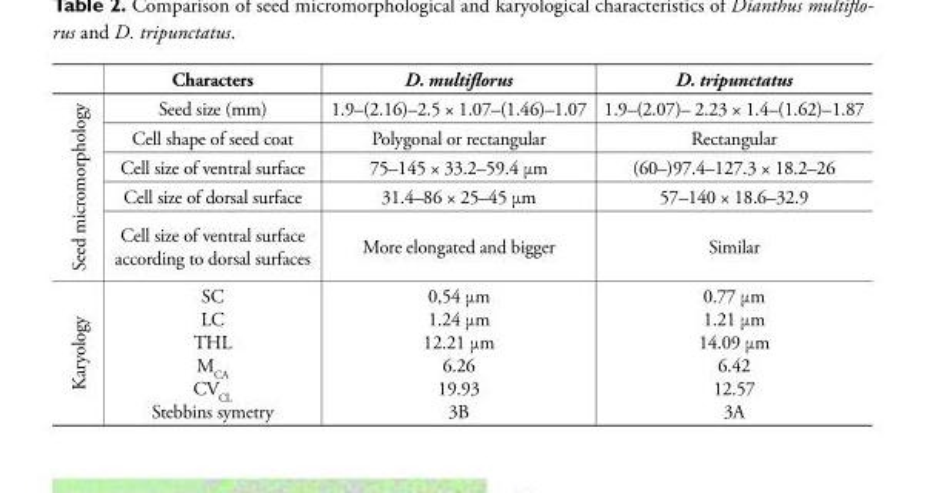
<table><thead><tr><td></td><td>Characters</td><td>D. multifl orus</td><td>D. tripunctatus</td></tr></thead><tbody><tr><td rowspan="5">Seed micromorphology</td><td>Seed size (mm)</td><td>1.9–(2.16)–2.5 × 1.07–(1.46)–1.07</td><td>1.9–(2.07)– 2.23 × 1.4–(1.62)–1.87</td></tr><tr><td>Cell shape of seed coat</td><td>Polygonal or rectangular</td><td>Rectangular</td></tr><tr><td>Cell size of ventral surface</td><td>75–145 × 33.2–59.4 μm</td><td>(60–)97.4–127.3 × 18.2–26</td></tr><tr><td>Cell size of dorsal surface</td><td>31.4–86 × 25–45 μm</td><td>57–140 × 18.6–32.9</td></tr><tr><td>Cell size of ventral surface according to dorsal surfaces</td><td>More elongated and bigger</td><td>Similar</td></tr><tr><td>Karyology</td><td>SC LC THL M<sub>CA</sub> CV<sub>CL</sub> Stebbins symetry</td><td>0,54 μm 1.24 μm 12.21 μm 6.26 19.93 3B</td><td>0.77 μm 1.21 μm 14.09 μm 6.42 12.57 3A</td></tr></tbody></table>